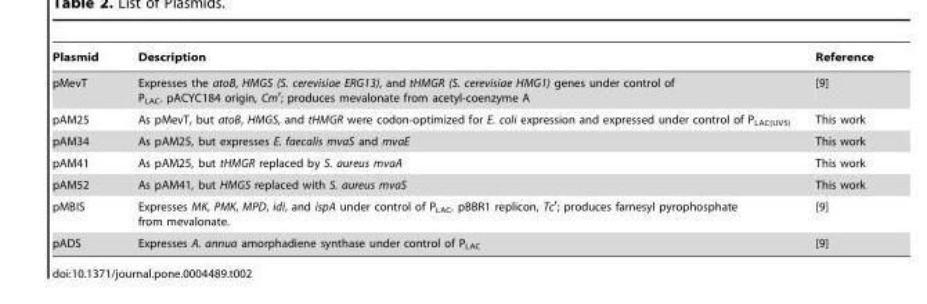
<table><thead><tr><td>Plasmid</td><td>Description</td><td>Reference</td></tr></thead><tbody><tr><td>pMevT</td><td>Expresses the atoB, HMGS (S. cerevisiae ERG13), and tHMGR (S. cerevisiae HMG1) genes under control of P<sub>LAC</sub>. pACYC184 origin, Cm<sup>r</sup>; produces mevalonate from acetyl-coenzyme A</td><td>[9]</td></tr><tr><td>pAM25</td><td>As pMevT, but atoB, HMGS, and tHMGR were codon-optimized for E. coli expression and expressed under control of P<sub>LAC(UV5)</sub></td><td>This work</td></tr><tr><td>pAM34</td><td>As pAM25, but expresses E. faecalis mvaS and mvaE</td><td>This work</td></tr><tr><td>pAM41</td><td>As pAM25, but tHMGR replaced by S. aureus mvaA</td><td>This work</td></tr><tr><td>pAM52</td><td>As pAM41, but HMGS replaced with S. aureus mvaS</td><td>This work</td></tr><tr><td>pMBIS</td><td>Expresses MK, PMK, MPD, idi, and ispA under control of P<sub>LAC</sub>. pBBR1 replicon, Tc<sup>r</sup>; produces farnesyl pyrophosphate from mevalonate.</td><td>[9]</td></tr><tr><td>pADS</td><td>Expresses A. annua amorphadiene synthase under control of P<sub>LAC</sub></td><td>[9]</td></tr></tbody></table>